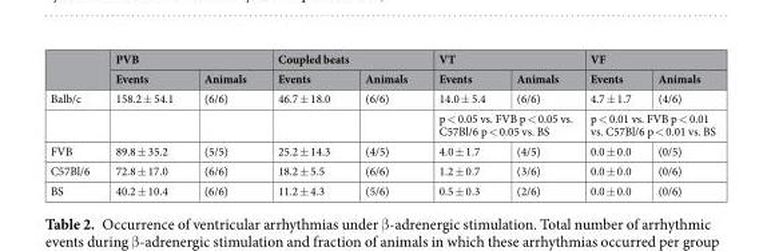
<table><thead><tr><td rowspan="2"></td><td colspan="2">PVB</td><td colspan="2">Coupled beats</td><td colspan="2">VT</td><td colspan="2">VF</td></tr><tr><td>Events</td><td>Animals</td><td>Events</td><td>Animals</td><td>Events</td><td>Animals</td><td>Events</td><td>Animals</td></tr></thead><tbody><tr><td rowspan="2">Balb/c</td><td>158.2 ± 54.1</td><td>(6/6)</td><td>46.7 ± 18.0</td><td>(6/6)</td><td>14.0 ± 5.4</td><td>(6/6)</td><td>4.7 ± 1.7</td><td>(4/6)</td></tr><tr><td></td><td></td><td></td><td></td><td colspan="2">p &lt; 0.05 vs. FVB p &lt; 0.05 vs. C57Bl/6 p &lt; 0.05 vs. BS</td><td colspan="2">p &lt; 0.01 vs. FVB p &lt; 0.01 vs. C57Bl/6 p &lt; 0.01 vs. BS</td></tr><tr><td>FVB</td><td>89.8 ± 35.2</td><td>(5/5)</td><td>25.2 ± 14.3</td><td>(4/5)</td><td>4.0 ± 1.7</td><td>(4/5)</td><td>0.0 ± 0.0</td><td>(0/5)</td></tr><tr><td>C57Bl/6</td><td>72.8 ± 17.0</td><td>(6/6)</td><td>18.2 ± 5.5</td><td>(6/6)</td><td>1.2 ± 0.7</td><td>(3/6)</td><td>0.0 ± 0.0</td><td>(0/6)</td></tr><tr><td>BS</td><td>40.2 ± 10.4</td><td>(6/6)</td><td>11.2 ± 4.3</td><td>(5/6)</td><td>0.5 ± 0.3</td><td>(2/6)</td><td>0.0 ± 0.0</td><td>(0/6)</td></tr></tbody></table>